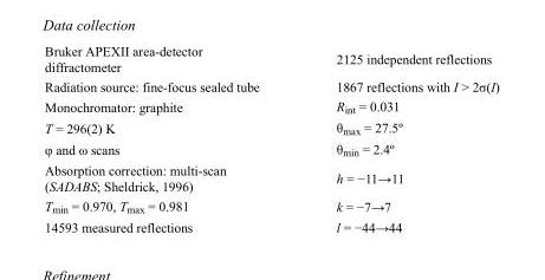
<table><tbody><tr><td>Bruker APEXII area-detector diffractometer</td><td>2125 independent reflections</td></tr><tr><td>Radiation source: fine-focus sealed tube</td><td>1867 reflections with I &gt; 2σ(I)</td></tr><tr><td>Monochromator: graphite</td><td>R<sub>int</sub> = 0.031</td></tr><tr><td>T = 296(2) K</td><td>θ<sub>max</sub> = 27.5º</td></tr><tr><td>φ and ω scans</td><td>θ<sub>min</sub> = 2.4º</td></tr><tr><td>Absorption correction: multi-scan (SADABS; Sheldrick, 1996)</td><td>h = −11→11</td></tr><tr><td>T<sub>min</sub> = 0.970, T<sub>max</sub> = 0.981</td><td>k = −7→7</td></tr><tr><td>14593 measured reflections</td><td>l = −44→44</td></tr></tbody></table>